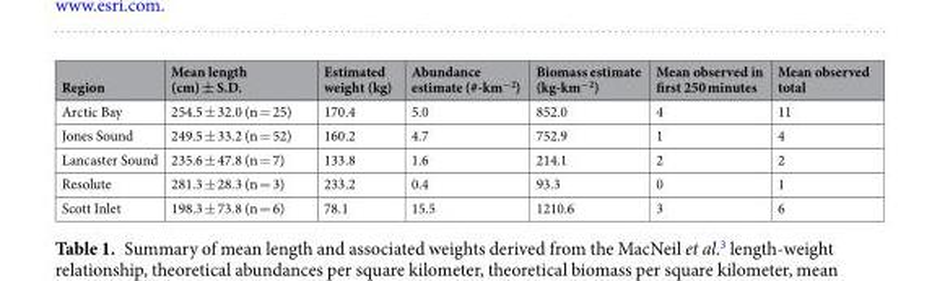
<table><thead><tr><td>Region</td><td>Mean length (cm) ± S.D.</td><td>Estimated weight (kg)</td><td>Abundance estimate (#-km<sup>−2</sup>)</td><td>Biomass estimate (kg-km<sup>−2</sup>)</td><td>Mean observed in first 250 minutes</td><td>Mean observed total</td></tr></thead><tbody><tr><td>Arctic Bay</td><td>254.5 ± 32.0 (n = 25)</td><td>170.4</td><td>5.0</td><td>852.0</td><td>4</td><td>11</td></tr><tr><td>Jones Sound</td><td>249.5 ± 33.2 (n = 52)</td><td>160.2</td><td>4.7</td><td>752.9</td><td>1</td><td>4</td></tr><tr><td>Lancaster Sound</td><td>235.6 ± 47.8 (n = 7)</td><td>133.8</td><td>1.6</td><td>214.1</td><td>2</td><td>2</td></tr><tr><td>Resolute</td><td>281.3 ± 28.3 (n = 3)</td><td>233.2</td><td>0.4</td><td>93.3</td><td>0</td><td>1</td></tr><tr><td>Scott Inlet</td><td>198.3 ± 73.8 (n = 6)</td><td>78.1</td><td>15.5</td><td>1210.6</td><td>3</td><td>6</td></tr></tbody></table>